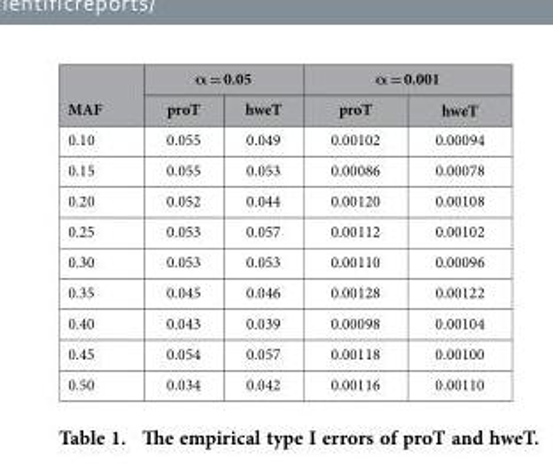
<table><thead><tr><td rowspan="2">MAF</td><td colspan="2">α = 0.05</td><td colspan="2">α = 0.001</td></tr><tr><td>proT</td><td>hweT</td><td>proT</td><td>hweT</td></tr></thead><tbody><tr><td>0.10</td><td>0.055</td><td>0.049</td><td>0.00102</td><td>0.00094</td></tr><tr><td>0.15</td><td>0.055</td><td>0.053</td><td>0.00086</td><td>0.00078</td></tr><tr><td>0.20</td><td>0.052</td><td>0.044</td><td>0.00120</td><td>0.00108</td></tr><tr><td>0.25</td><td>0.053</td><td>0.057</td><td>0.00112</td><td>0.00102</td></tr><tr><td>0.30</td><td>0.053</td><td>0.053</td><td>0.00110</td><td>0.00096</td></tr><tr><td>0.35</td><td>0.045</td><td>0.046</td><td>0.00128</td><td>0.00122</td></tr><tr><td>0.40</td><td>0.043</td><td>0.039</td><td>0.00098</td><td>0.00104</td></tr><tr><td>0.45</td><td>0.054</td><td>0.057</td><td>0.00118</td><td>0.00100</td></tr><tr><td>0.50</td><td>0.034</td><td>0.042</td><td>0.00116</td><td>0.00110</td></tr></tbody></table>